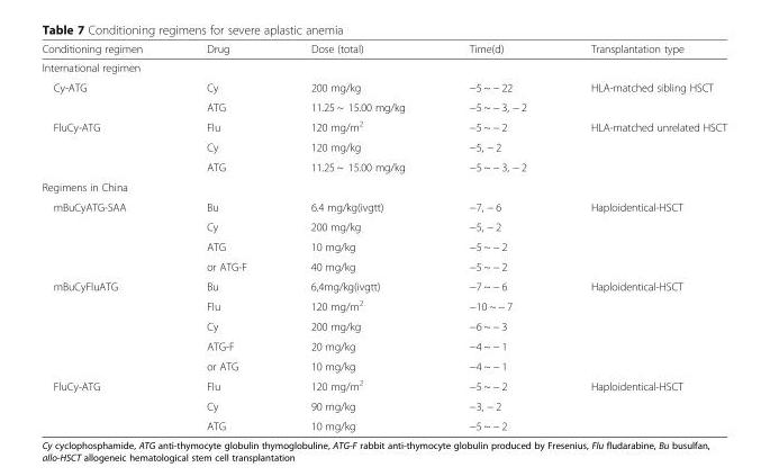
<table><thead><tr><td>Conditioning regimen</td><td>Drug</td><td>Dose (total)</td><td>Time(d)</td><td>Transplantation type</td></tr></thead><tbody><tr><td colspan="5">International regimen</td></tr><tr><td rowspan="2">Cy-ATG</td><td>Cy</td><td>200 mg/kg</td><td>−5 ~ − 22</td><td rowspan="2">HLA-matched sibling HSCT</td></tr><tr><td>ATG</td><td>11.25 ~ 15.00 mg/kg</td><td>−5 ~ − 3, − 2</td></tr><tr><td rowspan="3">FluCy-ATG</td><td>Flu</td><td>120 mg/m<sup>2</sup></td><td>−5 ~ − 2</td><td rowspan="3">HLA-matched unrelated HSCT</td></tr><tr><td>Cy</td><td>120 mg/kg</td><td>−5, − 2</td></tr><tr><td>ATG</td><td>11.25 ~ 15.00 mg/kg</td><td>−5 ~ − 3, − 2</td></tr><tr><td colspan="5">Regimens in China</td></tr><tr><td rowspan="4">mBuCyATG-SAA</td><td>Bu</td><td>6.4 mg/kg(ivgtt)</td><td>−7, − 6</td><td rowspan="4">Haploidentical-HSCT</td></tr><tr><td>Cy</td><td>200 mg/kg</td><td>−5, − 2</td></tr><tr><td>ATG</td><td>10 mg/kg</td><td>−5 ~ − 2</td></tr><tr><td>or ATG-F</td><td>40 mg/kg</td><td>−5 ~ − 2</td></tr><tr><td rowspan="5">mBuCyFluATG</td><td>Bu</td><td>6,4mg/kg(ivgtt)</td><td>−7 ~ − 6</td><td rowspan="5">Haploidentical-HSCT</td></tr><tr><td>Flu</td><td>120 mg/m<sup>2</sup></td><td>−10 ~ − 7</td></tr><tr><td>Cy</td><td>200 mg/kg</td><td>−6 ~ − 3</td></tr><tr><td>ATG-F</td><td>20 mg/kg</td><td>−4 ~ − 1</td></tr><tr><td>or ATG</td><td>10 mg/kg</td><td>−4 ~ − 1</td></tr><tr><td rowspan="3">FluCy-ATG</td><td>Flu</td><td>120 mg/m<sup>2</sup></td><td>−5 ~ − 2</td><td rowspan="3">Haploidentical-HSCT</td></tr><tr><td>Cy</td><td>90 mg/kg</td><td>−3, − 2</td></tr><tr><td>ATG</td><td>10 mg/kg</td><td>−5 ~ − 2</td></tr></tbody></table>